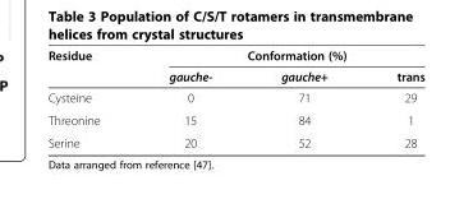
<table><thead><tr><td rowspan="2">Residue</td><td colspan="3">Conformation (%)</td></tr><tr><td>gauche-</td><td>gauche+</td><td>trans</td></tr></thead><tbody><tr><td>Cysteine</td><td>0</td><td>71</td><td>29</td></tr><tr><td>Threonine</td><td>15</td><td>84</td><td>1</td></tr><tr><td>Serine</td><td>20</td><td>52</td><td>28</td></tr></tbody></table>